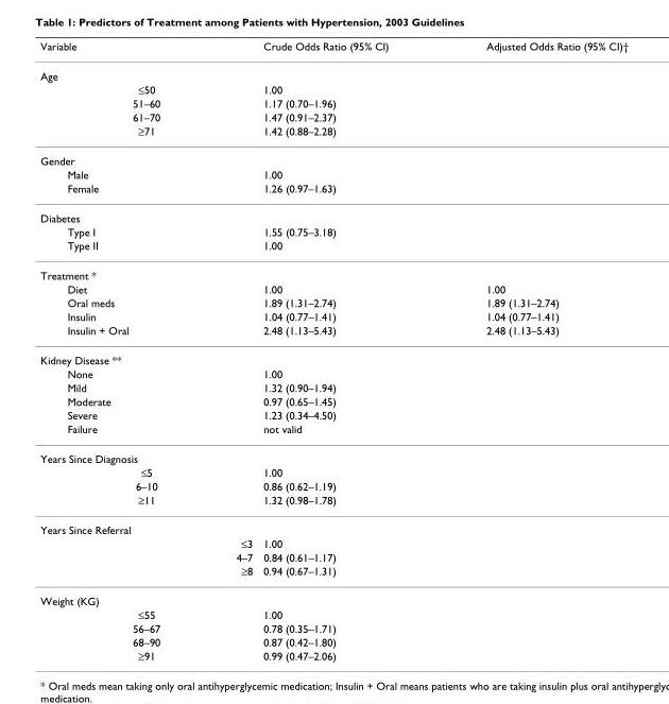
<table><thead><tr><td>Variable</td><td>Crude Odds Ratio (95% CI)</td><td>Adjusted Odds Ratio (95% CI)†</td></tr></thead><tbody><tr><td colspan="3">Age</td></tr><tr><td>≤50</td><td>1.00</td><td></td></tr><tr><td>51–60</td><td>1.17 (0.70–1.96)</td><td></td></tr><tr><td>61–70</td><td>1.47 (0.91–2.37)</td><td></td></tr><tr><td>≥71</td><td>1.42 (0.88–2.28)</td><td></td></tr><tr><td colspan="3">Gender</td></tr><tr><td>Male</td><td>1.00</td><td></td></tr><tr><td>Female</td><td>1.26 (0.97–1.63)</td><td></td></tr><tr><td colspan="3">Diabetes</td></tr><tr><td>Type I</td><td>1.55 (0.75–3.18)</td><td></td></tr><tr><td>Type II</td><td>1.00</td><td></td></tr><tr><td colspan="3">Treatment *</td></tr><tr><td>Diet</td><td>1.00</td><td>1.00</td></tr><tr><td>Oral meds</td><td>1.89 (1.31–2.74)</td><td>1.89 (1.31–2.74)</td></tr><tr><td>Insulin</td><td>1.04 (0.77–1.41)</td><td>1.04 (0.77–1.41)</td></tr><tr><td>Insulin + Oral</td><td>2.48 (1.13–5.43)</td><td>2.48 (1.13–5.43)</td></tr><tr><td colspan="3">Kidney Disease **</td></tr><tr><td>None</td><td>1.00</td><td></td></tr><tr><td>Mild</td><td>1.32 (0.90–1.94)</td><td></td></tr><tr><td>Moderate</td><td>0.97 (0.65–1.45)</td><td></td></tr><tr><td>Severe</td><td>1.23 (0.34–4.50)</td><td></td></tr><tr><td>Failure</td><td>not valid</td><td></td></tr><tr><td colspan="3">Years Since Diagnosis</td></tr><tr><td>≤5</td><td>1.00</td><td></td></tr><tr><td>6–10</td><td>0.86 (0.62–1.19)</td><td></td></tr><tr><td>≥11</td><td>1.32 (0.98–1.78)</td><td></td></tr><tr><td colspan="3">Years Since Referral</td></tr><tr><td>≤3</td><td>1.00</td><td></td></tr><tr><td>4–7</td><td>0.84 (0.61–1.17)</td><td></td></tr><tr><td>≥8</td><td>0.94 (0.67–1.31)</td><td></td></tr><tr><td colspan="3">Weight (KG)</td></tr><tr><td>≤55</td><td>1.00</td><td></td></tr><tr><td>56–67</td><td>0.78 (0.35–1.71)</td><td></td></tr><tr><td>68–90</td><td>0.87 (0.42–1.80)</td><td></td></tr><tr><td>≥91</td><td>0.99 (0.47–2.06)</td><td></td></tr></tbody></table>